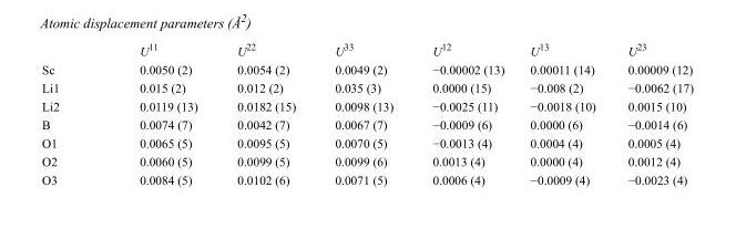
<table><thead><tr><td></td><td>U<sup>11</sup></td><td>U<sup>22</sup></td><td>U<sup>33</sup></td><td>U<sup>12</sup></td><td>U<sup>13</sup></td><td>U<sup>23</sup></td></tr></thead><tbody><tr><td>Sc</td><td>0.0050 (2)</td><td>0.0054 (2)</td><td>0.0049 (2)</td><td>−0.00002 (13)</td><td>0.00011 (14)</td><td>0.00009 (12)</td></tr><tr><td>Li1</td><td>0.015 (2)</td><td>0.012 (2)</td><td>0.035 (3)</td><td>0.0000 (15)</td><td>−0.008 (2)</td><td>−0.0062 (17)</td></tr><tr><td>Li2</td><td>0.0119 (13)</td><td>0.0182 (15)</td><td>0.0098 (13)</td><td>−0.0025 (11)</td><td>−0.0018 (10)</td><td>0.0015 (10)</td></tr><tr><td>B</td><td>0.0074 (7)</td><td>0.0042 (7)</td><td>0.0067 (7)</td><td>−0.0009 (6)</td><td>0.0000 (6)</td><td>−0.0014 (6)</td></tr><tr><td>O1</td><td>0.0065 (5)</td><td>0.0095 (5)</td><td>0.0070 (5)</td><td>−0.0013 (4)</td><td>0.0004 (4)</td><td>0.0005 (4)</td></tr><tr><td>O2</td><td>0.0060 (5)</td><td>0.0099 (5)</td><td>0.0099 (6)</td><td>0.0013 (4)</td><td>0.0000 (4)</td><td>0.0012 (4)</td></tr><tr><td>O3</td><td>0.0084 (5)</td><td>0.0102 (6)</td><td>0.0071 (5)</td><td>0.0006 (4)</td><td>−0.0009 (4)</td><td>−0.0023 (4)</td></tr></tbody></table>